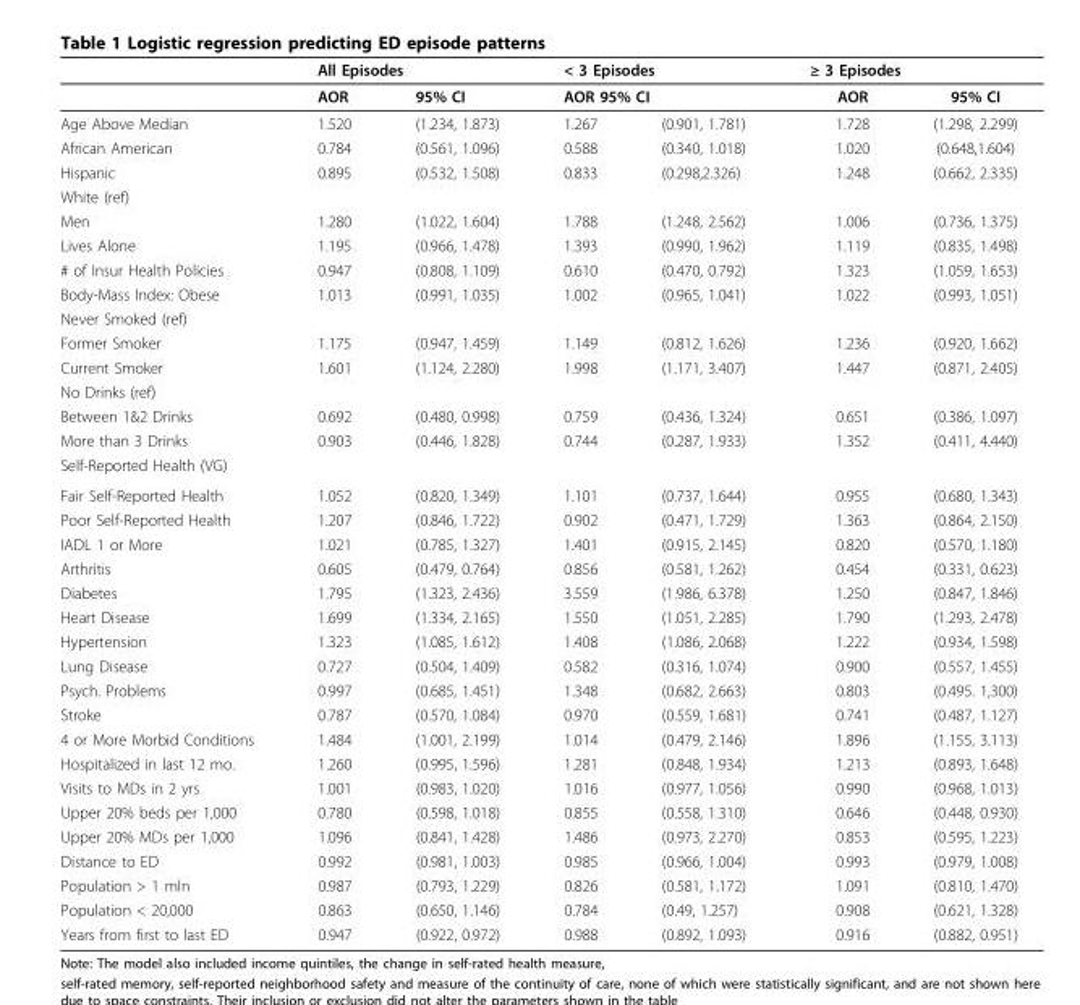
<table><thead><tr><td rowspan="3">Age Above Median</td><td colspan="2">All Episodes</td><td rowspan="2" colspan="2">&lt; 3 Episodes AOR 95% CI</td><td colspan="2">≥ 3 Episodes</td></tr><tr><td rowspan="2">AOR 1.520</td><td rowspan="2">95% CI (1.234, 1.873)</td><td rowspan="2">AOR 1.728</td><td rowspan="2">95% CI (1.298, 2.299)</td></tr><tr><td>1.267</td><td>(0.901, 1.781)</td></tr></thead><tbody><tr><td>African American</td><td>0.784</td><td>(0.561, 1.096)</td><td>0.588</td><td>(0.340, 1.018)</td><td>1.020</td><td>(0.648,1.604)</td></tr><tr><td>Hispanic</td><td>0.895</td><td>(0.532, 1.508)</td><td>0.833</td><td>(0.298,2.326)</td><td>1.248</td><td>(0.662, 2.335)</td></tr><tr><td colspan="7">White (ref)</td></tr><tr><td>Men</td><td>1.280</td><td>(1.022, 1.604)</td><td>1.788</td><td>(1.248, 2.562)</td><td>1.006</td><td>(0.736, 1.375)</td></tr><tr><td>Lives Alone</td><td>1.195</td><td>(0.966, 1.478)</td><td>1.393</td><td>(0.990, 1.962)</td><td>1.119</td><td>(0.835, 1.498)</td></tr><tr><td># of Insur Health Policies</td><td>0.947</td><td>(0.808, 1.109)</td><td>0.610</td><td>(0.470, 0.792)</td><td>1.323</td><td>(1.059, 1.653)</td></tr><tr><td>Body-Mass Index: Obese</td><td>1.013</td><td>(0.991, 1.035)</td><td>1.002</td><td>(0.965, 1.041)</td><td>1.022</td><td>(0.993, 1.051)</td></tr><tr><td colspan="7">Never Smoked (ref)</td></tr><tr><td>Former Smoker</td><td>1.175</td><td>(0.947, 1.459)</td><td>1.149</td><td>(0.812, 1.626)</td><td>1.236</td><td>(0.920, 1.662)</td></tr><tr><td>Current Smoker</td><td>1.601</td><td>(1.124, 2.280)</td><td>1.998</td><td>(1.171, 3.407)</td><td>1.447</td><td>(0.871, 2.405)</td></tr><tr><td colspan="7">No Drinks (ref)</td></tr><tr><td>Between 1&amp;2 Drinks</td><td>0.692</td><td>(0.480, 0.998)</td><td>0.759</td><td>(0.436, 1.324)</td><td>0.651</td><td>(0.386, 1.097)</td></tr><tr><td>More than 3 Drinks</td><td>0.903</td><td>(0.446, 1.828)</td><td>0.744</td><td>(0.287, 1.933)</td><td>1.352</td><td>(0.411, 4.440)</td></tr><tr><td colspan="7">Self-Reported Health (VG)</td></tr><tr><td>Fair Self-Reported Health</td><td>1.052</td><td>(0.820, 1.349)</td><td>1.101</td><td>(0.737, 1.644)</td><td>0.955</td><td>(0.680, 1.343)</td></tr><tr><td>Poor Self-Reported Health</td><td>1.207</td><td>(0.846, 1.722)</td><td>0.902</td><td>(0.471, 1.729)</td><td>1.363</td><td>(0.864, 2.150)</td></tr><tr><td>IADL 1 or More</td><td>1.021</td><td>(0.785, 1.327)</td><td>1.401</td><td>(0.915, 2.145)</td><td>0.820</td><td>(0.570, 1.180)</td></tr><tr><td>Arthritis</td><td>0.605</td><td>(0.479, 0.764)</td><td>0.856</td><td>(0.581, 1.262)</td><td>0.454</td><td>(0.331, 0.623)</td></tr><tr><td>Diabetes</td><td>1.795</td><td>(1.323, 2.436)</td><td>3.559</td><td>(1.986, 6.378)</td><td>1.250</td><td>(0.847, 1.846)</td></tr><tr><td>Heart Disease</td><td>1.699</td><td>(1.334, 2.165)</td><td>1.550</td><td>(1.051, 2.285)</td><td>1.790</td><td>(1.293, 2.478)</td></tr><tr><td>Hypertension</td><td>1.323</td><td>(1.085, 1.612)</td><td>1.408</td><td>(1.086, 2.068)</td><td>1.222</td><td>(0.934, 1.598)</td></tr><tr><td>Lung Disease</td><td>0.727</td><td>(0.504, 1.409)</td><td>0.582</td><td>(0.316, 1.074)</td><td>0.900</td><td>(0.557, 1.455)</td></tr><tr><td>Psych. Problems</td><td>0.997</td><td>(0.685, 1.451)</td><td>1.348</td><td>(0.682, 2.663)</td><td>0.803</td><td>(0.495. 1,300)</td></tr><tr><td>Stroke</td><td>0.787</td><td>(0.570, 1.084)</td><td>0.970</td><td>(0.559, 1.681)</td><td>0.741</td><td>(0.487, 1.127)</td></tr><tr><td>4 or More Morbid Conditions</td><td>1.484</td><td>(1.001, 2.199)</td><td>1.014</td><td>(0.479, 2.146)</td><td>1.896</td><td>(1.155, 3.113)</td></tr><tr><td>Hospitalized in last 12 mo.</td><td>1.260</td><td>(0.995, 1.596)</td><td>1.281</td><td>(0.848, 1.934)</td><td>1.213</td><td>(0.893, 1.648)</td></tr><tr><td>Visits to MDs in 2 yrs</td><td>1.001</td><td>(0.983, 1.020)</td><td>1.016</td><td>(0.977, 1.056)</td><td>0.990</td><td>(0.968, 1.013)</td></tr><tr><td>Upper 20% beds per 1,000</td><td>0.780</td><td>(0.598, 1.018)</td><td>0.855</td><td>(0.558, 1.310)</td><td>0.646</td><td>(0.448, 0.930)</td></tr><tr><td>Upper 20% MDs per 1,000</td><td>1.096</td><td>(0.841, 1.428)</td><td>1.486</td><td>(0.973, 2.270)</td><td>0.853</td><td>(0.595, 1.223)</td></tr><tr><td>Distance to ED</td><td>0.992</td><td>(0.981, 1.003)</td><td>0.985</td><td>(0.966, 1.004)</td><td>0.993</td><td>(0.979, 1.008)</td></tr><tr><td>Population &gt; 1 mln</td><td>0.987</td><td>(0.793, 1.229)</td><td>0.826</td><td>(0.581, 1.172)</td><td>1.091</td><td>(0.810, 1.470)</td></tr><tr><td>Population &lt; 20,000</td><td>0.863</td><td>(0.650, 1.146)</td><td>0.784</td><td>(0.49, 1.257)</td><td>0.908</td><td>(0.621, 1.328)</td></tr><tr><td>Years from first to last ED</td><td>0.947</td><td>(0.922, 0.972)</td><td>0.988</td><td>(0.892, 1.093)</td><td>0.916</td><td>(0.882, 0.951)</td></tr></tbody></table>